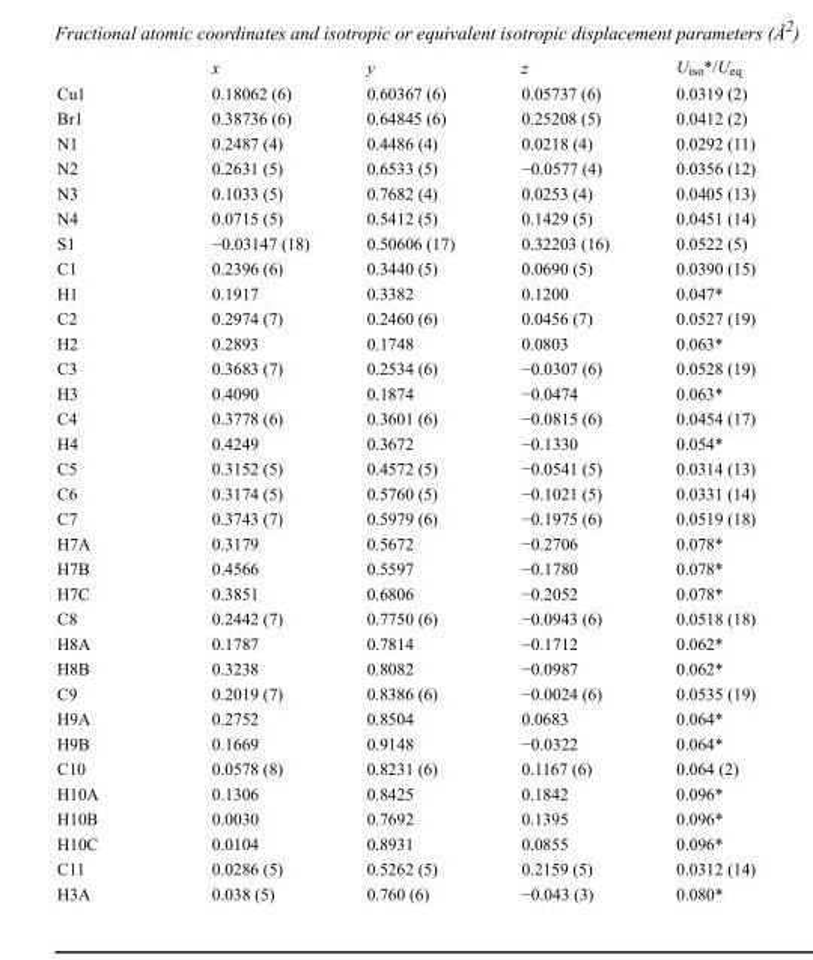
<table><thead><tr><td></td><td>x</td><td>y</td><td>z</td><td>U<sub>iso</sub>*/U<sub>eq</sub></td></tr></thead><tbody><tr><td>Cu1</td><td>0.18062 (6)</td><td>0.60367 (6)</td><td>0.05737 (6)</td><td>0.0319 (2)</td></tr><tr><td>Br1</td><td>0.38736 (6)</td><td>0.64845 (6)</td><td>0.25208 (5)</td><td>0.0412 (2)</td></tr><tr><td>N1</td><td>0.2487 (4)</td><td>0.4486 (4)</td><td>0.0218 (4)</td><td>0.0292 (11)</td></tr><tr><td>N2</td><td>0.2631 (5)</td><td>0.6533 (5)</td><td>−0.0577 (4)</td><td>0.0356 (12)</td></tr><tr><td>N3</td><td>0.1033 (5)</td><td>0.7682 (4)</td><td>0.0253 (4)</td><td>0.0405 (13)</td></tr><tr><td>N4</td><td>0.0715 (5)</td><td>0.5412 (5)</td><td>0.1429 (5)</td><td>0.0451 (14)</td></tr><tr><td>S1</td><td>−0.03147 (18)</td><td>0.50606 (17)</td><td>0.32203 (16)</td><td>0.0522 (5)</td></tr><tr><td>C1</td><td>0.2396 (6)</td><td>0.3440 (5)</td><td>0.0690 (5)</td><td>0.0390 (15)</td></tr><tr><td>H1</td><td>0.1917</td><td>0.3382</td><td>0.1200</td><td>0.047*</td></tr><tr><td>C2</td><td>0.2974 (7)</td><td>0.2460 (6)</td><td>0.0456 (7)</td><td>0.0527 (19)</td></tr><tr><td>H2</td><td>0.2893</td><td>0.1748</td><td>0.0803</td><td>0.063*</td></tr><tr><td>C3</td><td>0.3683 (7)</td><td>0.2534 (6)</td><td>−0.0307 (6)</td><td>0.0528 (19)</td></tr><tr><td>H3</td><td>0.4090</td><td>0.1874</td><td>−0.0474</td><td>0.063*</td></tr><tr><td>C4</td><td>0.3778 (6)</td><td>0.3601 (6)</td><td>−0.0815 (6)</td><td>0.0454 (17)</td></tr><tr><td>H4</td><td>0.4249</td><td>0.3672</td><td>−0.1330</td><td>0.054*</td></tr><tr><td>C5</td><td>0.3152 (5)</td><td>0.4572 (5)</td><td>−0.0541 (5)</td><td>0.0314 (13)</td></tr><tr><td>C6</td><td>0.3174 (5)</td><td>0.5760 (5)</td><td>−0.1021 (5)</td><td>0.0331 (14)</td></tr><tr><td>C7</td><td>0.3743 (7)</td><td>0.5979 (6)</td><td>−0.1975 (6)</td><td>0.0519 (18)</td></tr><tr><td>H7A</td><td>0.3179</td><td>0.5672</td><td>−0.2706</td><td>0.078*</td></tr><tr><td>H7B</td><td>0.4566</td><td>0.5597</td><td>−0.1780</td><td>0.078*</td></tr><tr><td>H7C</td><td>0.3851</td><td>0.6806</td><td>−0.2052</td><td>0.078*</td></tr><tr><td>C8</td><td>0.2442 (7)</td><td>0.7750 (6)</td><td>−0.0943 (6)</td><td>0.0518 (18)</td></tr><tr><td>H8A</td><td>0.1787</td><td>0.7814</td><td>−0.1712</td><td>0.062*</td></tr><tr><td>H8B</td><td>0.3238</td><td>0.8082</td><td>−0.0987</td><td>0.062*</td></tr><tr><td>C9</td><td>0.2019 (7)</td><td>0.8386 (6)</td><td>−0.0024 (6)</td><td>0.0535 (19)</td></tr><tr><td>H9A</td><td>0.2752</td><td>0.8504</td><td>0.0683</td><td>0.064*</td></tr><tr><td>H9B</td><td>0.1669</td><td>0.9148</td><td>−0.0322</td><td>0.064*</td></tr><tr><td>C10</td><td>0.0578 (8)</td><td>0.8231 (6)</td><td>0.1167 (6)</td><td>0.064 (2)</td></tr><tr><td>H10A</td><td>0.1306</td><td>0.8425</td><td>0.1842</td><td>0.096*</td></tr><tr><td>H10B</td><td>0.0030</td><td>0.7692</td><td>0.1395</td><td>0.096*</td></tr><tr><td>H10C</td><td>0.0104</td><td>0.8931</td><td>0.0855</td><td>0.096*</td></tr><tr><td>C11</td><td>0.0286 (5)</td><td>0.5262 (5)</td><td>0.2159 (5)</td><td>0.0312 (14)</td></tr><tr><td>H3A</td><td>0.038 (5)</td><td>0.760 (6)</td><td>−0.043 (3)</td><td>0.080*</td></tr></tbody></table>